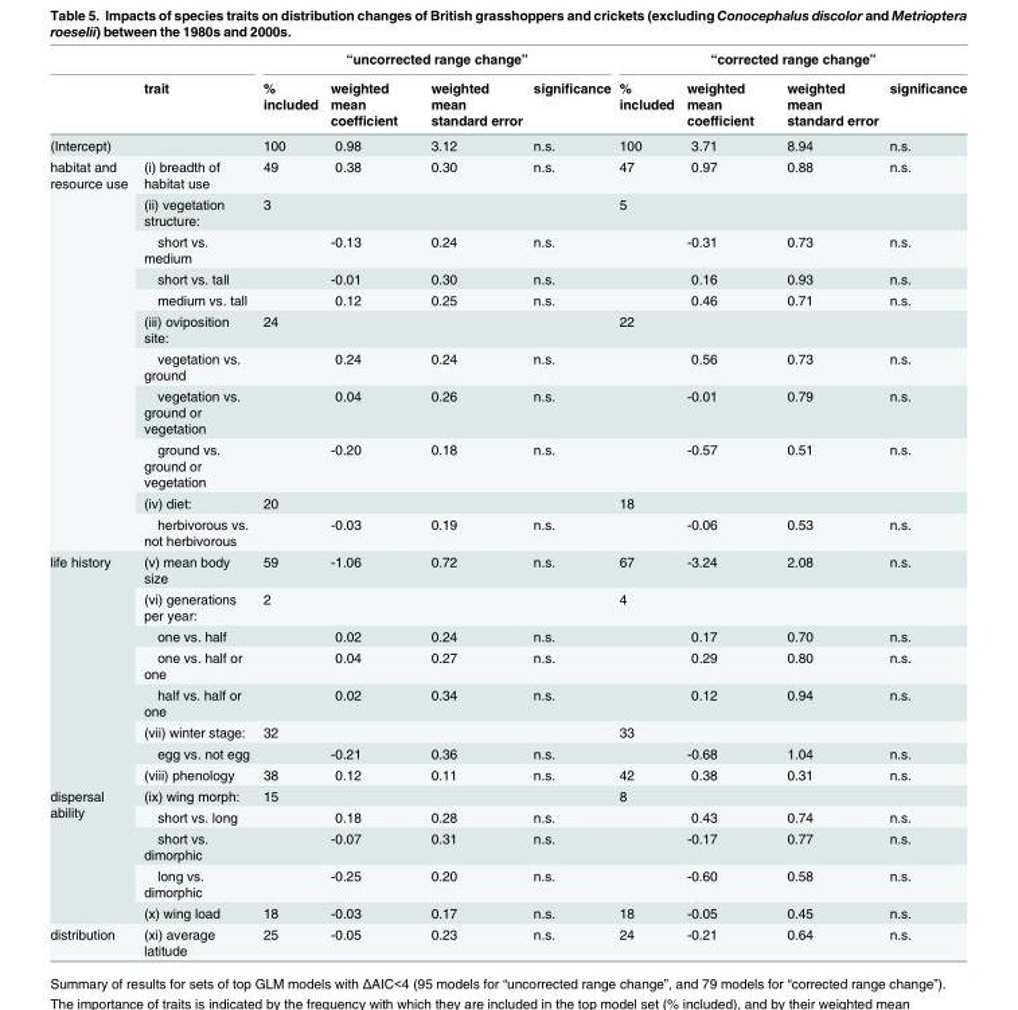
<table><thead><tr><td rowspan="2"></td><td rowspan="2">trait</td><td colspan="4">“uncorrected range change”</td><td colspan="4">“corrected range change”</td></tr><tr><td>% included</td><td>weighted mean coefficient</td><td>weighted mean standard error</td><td>significance</td><td>% included</td><td>weighted mean coefficient</td><td>weighted mean standard error</td><td>significance</td></tr></thead><tbody><tr><td>(Intercept)</td><td></td><td>100</td><td>0.98</td><td>3.12</td><td>n.s.</td><td>100</td><td>3.71</td><td>8.94</td><td>n.s.</td></tr><tr><td rowspan="11">habitat and resource use</td><td>(i) breadth of habitat use</td><td>49</td><td>0.38</td><td>0.30</td><td>n.s.</td><td>47</td><td>0.97</td><td>0.88</td><td>n.s.</td></tr><tr><td>(ii) vegetation structure:</td><td>3</td><td></td><td></td><td></td><td>5</td><td></td><td></td><td></td></tr><tr><td>short vs. medium</td><td></td><td>-0.13</td><td>0.24</td><td>n.s.</td><td></td><td>-0.31</td><td>0.73</td><td>n.s.</td></tr><tr><td>short vs. tall</td><td></td><td>-0.01</td><td>0.30</td><td>n.s.</td><td></td><td>0.16</td><td>0.93</td><td>n.s.</td></tr><tr><td>medium vs. tall</td><td></td><td>0.12</td><td>0.25</td><td>n.s.</td><td></td><td>0.46</td><td>0.71</td><td>n.s.</td></tr><tr><td>(iii) oviposition site:</td><td>24</td><td></td><td></td><td></td><td>22</td><td></td><td></td><td></td></tr><tr><td>vegetation vs. ground</td><td></td><td>0.24</td><td>0.24</td><td>n.s.</td><td></td><td>0.56</td><td>0.73</td><td>n.s.</td></tr><tr><td>vegetation vs. ground or vegetation</td><td></td><td>0.04</td><td>0.26</td><td>n.s.</td><td></td><td>-0.01</td><td>0.79</td><td>n.s.</td></tr><tr><td>ground vs. ground or vegetation</td><td></td><td>-0.20</td><td>0.18</td><td>n.s.</td><td></td><td>-0.57</td><td>0.51</td><td>n.s.</td></tr><tr><td>(iv) diet:</td><td>20</td><td></td><td></td><td></td><td>18</td><td></td><td></td><td></td></tr><tr><td>herbivorous vs. not herbivorous</td><td></td><td>-0.03</td><td>0.19</td><td>n.s.</td><td></td><td>-0.06</td><td>0.53</td><td>n.s.</td></tr><tr><td rowspan="8">life history</td><td>(v) mean body size</td><td>59</td><td>-1.06</td><td>0.72</td><td>n.s.</td><td>67</td><td>-3.24</td><td>2.08</td><td>n.s.</td></tr><tr><td>(vi) generations per year:</td><td>2</td><td></td><td></td><td></td><td>4</td><td></td><td></td><td></td></tr><tr><td>one vs. half</td><td></td><td>0.02</td><td>0.24</td><td>n.s.</td><td></td><td>0.17</td><td>0.70</td><td>n.s.</td></tr><tr><td>one vs. half or one</td><td></td><td>0.04</td><td>0.27</td><td>n.s.</td><td></td><td>0.29</td><td>0.80</td><td>n.s.</td></tr><tr><td>half vs. half or one</td><td></td><td>0.02</td><td>0.34</td><td>n.s.</td><td></td><td>0.12</td><td>0.94</td><td>n.s.</td></tr><tr><td>(vii) winter stage:</td><td>32</td><td></td><td></td><td></td><td>33</td><td></td><td></td><td></td></tr><tr><td>egg vs. not egg</td><td></td><td>-0.21</td><td>0.36</td><td>n.s.</td><td></td><td>-0.68</td><td>1.04</td><td>n.s.</td></tr><tr><td>(viii) phenology</td><td>38</td><td>0.12</td><td>0.11</td><td>n.s.</td><td>42</td><td>0.38</td><td>0.31</td><td>n.s.</td></tr><tr><td rowspan="5">dispersal ability</td><td>(ix) wing morph:</td><td>15</td><td></td><td></td><td></td><td>8</td><td></td><td></td><td></td></tr><tr><td>short vs. long</td><td></td><td>0.18</td><td>0.28</td><td>n.s.</td><td></td><td>0.43</td><td>0.74</td><td>n.s.</td></tr><tr><td>short vs. dimorphic</td><td></td><td>-0.07</td><td>0.31</td><td>n.s.</td><td></td><td>-0.17</td><td>0.77</td><td>n.s.</td></tr><tr><td>long vs. dimorphic</td><td></td><td>-0.25</td><td>0.20</td><td>n.s.</td><td></td><td>-0.60</td><td>0.58</td><td>n.s.</td></tr><tr><td>(x) wing load</td><td>18</td><td>-0.03</td><td>0.17</td><td>n.s.</td><td>18</td><td>-0.05</td><td>0.45</td><td>n.s.</td></tr><tr><td>distribution</td><td>(xi) average latitude</td><td>25</td><td>-0.05</td><td>0.23</td><td>n.s.</td><td>24</td><td>-0.21</td><td>0.64</td><td>n.s.</td></tr></tbody></table>